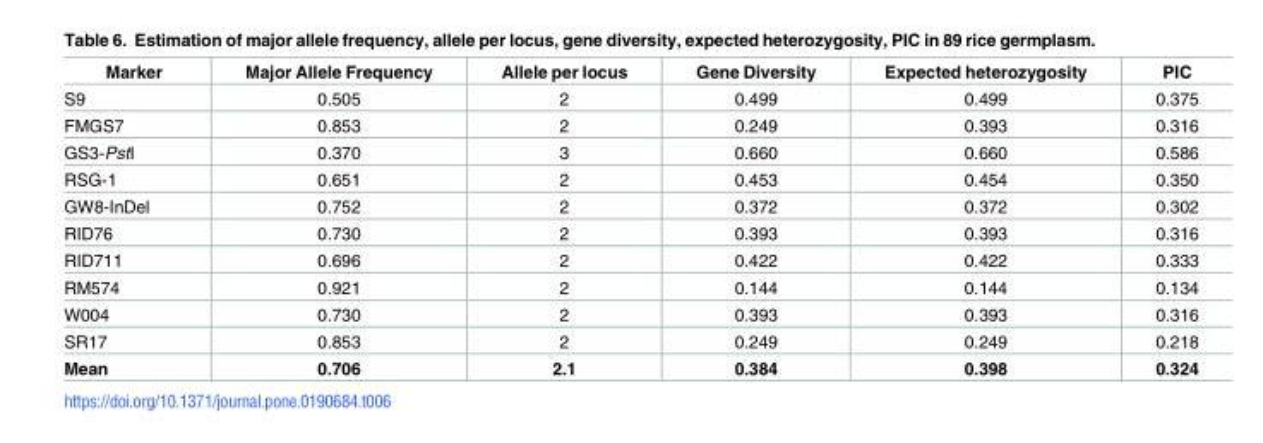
<table><thead><tr><td>Marker</td><td>Major Allele Frequency</td><td>Allele per locus</td><td>Gene Diversity</td><td>Expected heterozygosity</td><td>PIC</td></tr></thead><tbody><tr><td>S9</td><td>0.505</td><td>2</td><td>0.499</td><td>0.499</td><td>0.375</td></tr><tr><td>FMGS7</td><td>0.853</td><td>2</td><td>0.249</td><td>0.393</td><td>0.316</td></tr><tr><td>GS3-PstI</td><td>0.370</td><td>3</td><td>0.660</td><td>0.660</td><td>0.586</td></tr><tr><td>RSG-1</td><td>0.651</td><td>2</td><td>0.453</td><td>0.454</td><td>0.350</td></tr><tr><td>GW8-InDel</td><td>0.752</td><td>2</td><td>0.372</td><td>0.372</td><td>0.302</td></tr><tr><td>RID76</td><td>0.730</td><td>2</td><td>0.393</td><td>0.393</td><td>0.316</td></tr><tr><td>RID711</td><td>0.696</td><td>2</td><td>0.422</td><td>0.422</td><td>0.333</td></tr><tr><td>RM574</td><td>0.921</td><td>2</td><td>0.144</td><td>0.144</td><td>0.134</td></tr><tr><td>W004</td><td>0.730</td><td>2</td><td>0.393</td><td>0.393</td><td>0.316</td></tr><tr><td>SR17</td><td>0.853</td><td>2</td><td>0.249</td><td>0.249</td><td>0.218</td></tr><tr><td>Mean</td><td>0.706</td><td>2.1</td><td>0.384</td><td>0.398</td><td>0.324</td></tr></tbody></table>